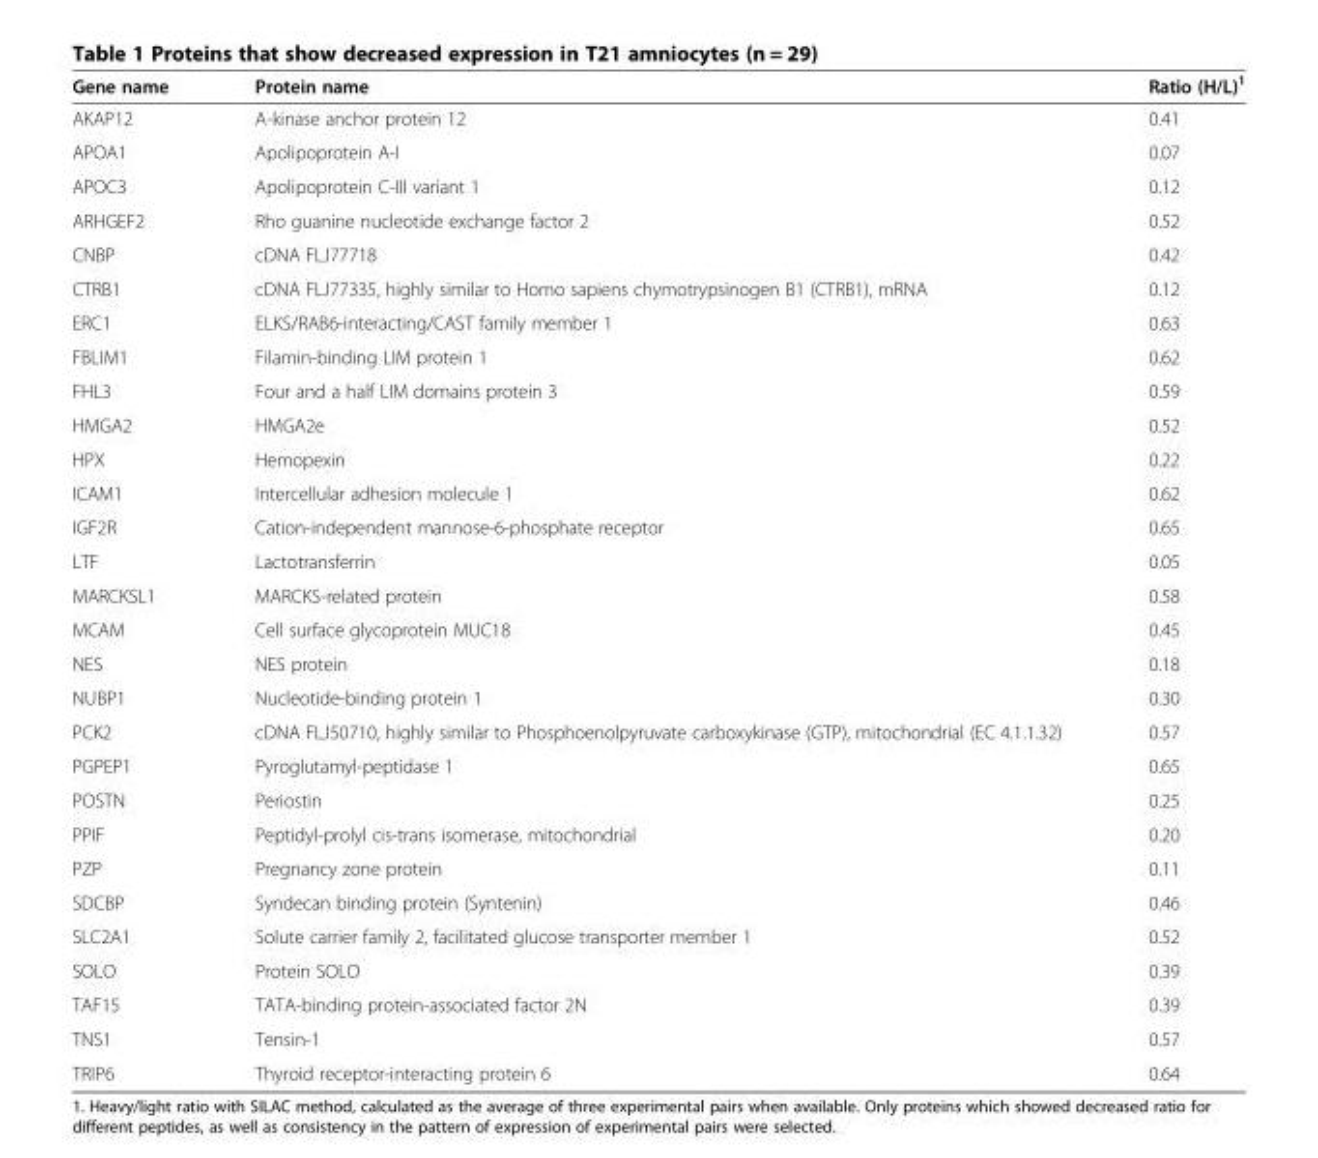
<table><thead><tr><td>Gene name</td><td>Protein name</td><td>Ratio (H/L)<sup>1</sup></td></tr></thead><tbody><tr><td>AKAP12</td><td>A-kinase anchor protein 12</td><td>0.41</td></tr><tr><td>APOA1</td><td>Apolipoprotein A-I</td><td>0.07</td></tr><tr><td>APOC3</td><td>Apolipoprotein C-III variant 1</td><td>0.12</td></tr><tr><td>ARHGEF2</td><td>Rho guanine nucleotide exchange factor 2</td><td>0.52</td></tr><tr><td>CNBP</td><td>cDNA FLJ77718</td><td>0.42</td></tr><tr><td>CTRB1</td><td>cDNA FLJ77335, highly similar to Homo sapiens chymotrypsinogen B1 (CTRB1), mRNA</td><td>0.12</td></tr><tr><td>ERC1</td><td>ELKS/RAB6-interacting/CAST family member 1</td><td>0.63</td></tr><tr><td>FBLIM1</td><td>Filamin-binding LIM protein 1</td><td>0.62</td></tr><tr><td>FHL3</td><td>Four and a half LIM domains protein 3</td><td>0.59</td></tr><tr><td>HMGA2</td><td>HMGA2e</td><td>0.52</td></tr><tr><td>HPX</td><td>Hemopexin</td><td>0.22</td></tr><tr><td>ICAM1</td><td>Intercellular adhesion molecule 1</td><td>0.62</td></tr><tr><td>IGF2R</td><td>Cation-independent mannose-6-phosphate receptor</td><td>0.65</td></tr><tr><td>LTF</td><td>Lactotransferrin</td><td>0.05</td></tr><tr><td>MARCKSL1</td><td>MARCKS-related protein</td><td>0.58</td></tr><tr><td>MCAM</td><td>Cell surface glycoprotein MUC18</td><td>0.45</td></tr><tr><td>NES</td><td>NES protein</td><td>0.18</td></tr><tr><td>NUBP1</td><td>Nucleotide-binding protein 1</td><td>0.30</td></tr><tr><td>PCK2</td><td>cDNA FLJ50710, highly similar to Phosphoenolpyruvate carboxykinase (GTP), mitochondrial (EC 4.1.1.32)</td><td>0.57</td></tr><tr><td>PGPEP1</td><td>Pyroglutamyl-peptidase 1</td><td>0.65</td></tr><tr><td>POSTN</td><td>Periostin</td><td>0.25</td></tr><tr><td>PPIF</td><td>Peptidyl-prolyl cis-trans isomerase, mitochondrial</td><td>0.20</td></tr><tr><td>PZP</td><td>Pregnancy zone protein</td><td>0.11</td></tr><tr><td>SDCBP</td><td>Syndecan binding protein (Syntenin)</td><td>0.46</td></tr><tr><td>SLC2A1</td><td>Solute carrier family 2, facilitated glucose transporter member 1</td><td>0.52</td></tr><tr><td>SOLO</td><td>Protein SOLO</td><td>0.39</td></tr><tr><td>TAF15</td><td>TATA-binding protein-associated factor 2N</td><td>0.39</td></tr><tr><td>TNS1</td><td>Tensin-1</td><td>0.57</td></tr><tr><td>TRIP6</td><td>Thyroid receptor-interacting protein 6</td><td>0.64</td></tr></tbody></table>